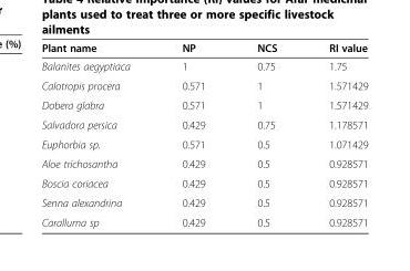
<table><thead><tr><td>Plant name</td><td>NP</td><td>NCS</td><td>RI value</td></tr></thead><tbody><tr><td>Balanites aegyptiaca</td><td>1</td><td>0.75</td><td>1.75</td></tr><tr><td>Calotropis procera</td><td>0.571</td><td>1</td><td>1.571429</td></tr><tr><td>Dobera glabra</td><td>0.571</td><td>1</td><td>1.571429</td></tr><tr><td>Salvadora persica</td><td>0.429</td><td>0.75</td><td>1.178571</td></tr><tr><td>Euphorbia sp.</td><td>0.571</td><td>0.5</td><td>1.071429</td></tr><tr><td>Aloe trichosantha</td><td>0.429</td><td>0.5</td><td>0.928571</td></tr><tr><td>Boscia coriacea</td><td>0.429</td><td>0.5</td><td>0.928571</td></tr><tr><td>Senna alexandrina</td><td>0.429</td><td>0.5</td><td>0.928571</td></tr><tr><td>Caralluma sp</td><td>0.429</td><td>0.5</td><td>0.928571</td></tr></tbody></table>